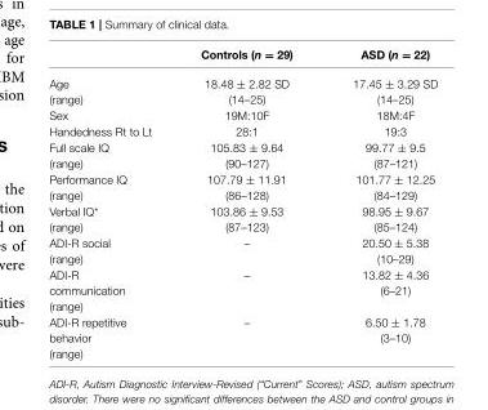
<table><thead><tr><td></td><td>Controls (n = 29)</td><td>ASD (n = 22)</td></tr></thead><tbody><tr><td>Age (range)</td><td>18.48 ± 2.82 SD (14–25)</td><td>17.45 ± 3.29 SD (14–25)</td></tr><tr><td>Sex</td><td>19M:10F</td><td>18M:4F</td></tr><tr><td>Handedness Rt to Lt</td><td>28:1</td><td>19:3</td></tr><tr><td>Full scale IQ (range)</td><td>105.83 ± 9.64 (90–127)</td><td>99.77 ± 9.5 (87–121)</td></tr><tr><td>Performance IQ (range)</td><td>107.79 ± 11.91 (86–128)</td><td>101.77 ± 12.25 (84–129)</td></tr><tr><td>Verbal IQ* (range)</td><td>103.86 ± 9.53 (87–123)</td><td>98.95 ± 9.67 (85–124)</td></tr><tr><td>ADI-R social (range)</td><td>–</td><td>20.50 ± 5.38 (10–29)</td></tr><tr><td>ADI-R communication (range)</td><td>–</td><td>13.82 ± 4.36 (6–21)</td></tr><tr><td>ADI-R repetitive behavior (range)</td><td>–</td><td>6.50 ± 1.78 (3–10)</td></tr></tbody></table>